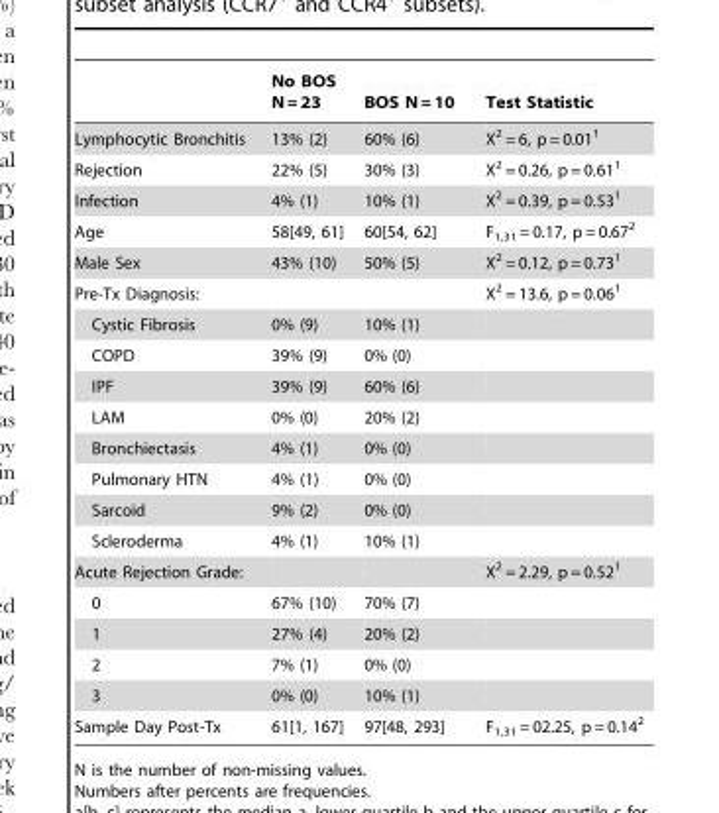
<table><thead><tr><td></td><td>No BOS N = 23</td><td>BOS N = 10</td><td>Test Statistic</td></tr></thead><tbody><tr><td>Lymphocytic Bronchitis</td><td>13% (2)</td><td>60% (6)</td><td>X<sup>2</sup> = 6, p = 0.01<sup>1</sup></td></tr><tr><td>Rejection</td><td>22% (5)</td><td>30% (3)</td><td>X<sup>2</sup> = 0.26, p = 0.61<sup>1</sup></td></tr><tr><td>Infection</td><td>4% (1)</td><td>10% (1)</td><td>X<sup>2</sup> = 0.39, p = 0.53<sup>1</sup></td></tr><tr><td>Age</td><td>58[49, 61]</td><td>60[54, 62]</td><td>F<sub>1,31</sub> = 0.17, p = 0.67<sup>2</sup></td></tr><tr><td>Male Sex</td><td>43% (10)</td><td>50% (5)</td><td>X<sup>2</sup> = 0.12, p = 0.73<sup>1</sup></td></tr><tr><td>Pre-Tx Diagnosis:</td><td></td><td></td><td>X<sup>2</sup> = 13.6, p = 0.06<sup>1</sup></td></tr><tr><td>Cystic Fibrosis</td><td>0% (9)</td><td>10% (1)</td><td></td></tr><tr><td>COPD</td><td>39% (9)</td><td>0% (0)</td><td></td></tr><tr><td>IPF</td><td>39% (9)</td><td>60% (6)</td><td></td></tr><tr><td>LAM</td><td>0% (0)</td><td>20% (2)</td><td></td></tr><tr><td>Bronchiectasis</td><td>4% (1)</td><td>0% (0)</td><td></td></tr><tr><td>Pulmonary HTN</td><td>4% (1)</td><td>0% (0)</td><td></td></tr><tr><td>Sarcoid</td><td>9% (2)</td><td>0% (0)</td><td></td></tr><tr><td>Scleroderma</td><td>4% (1)</td><td>10% (1)</td><td></td></tr><tr><td>Acute Rejection Grade:</td><td></td><td></td><td>X<sup>2</sup> = 2.29, p = 0.52<sup>1</sup></td></tr><tr><td>0</td><td>67% (10)</td><td>70% (7)</td><td></td></tr><tr><td>1</td><td>27% (4)</td><td>20% (2)</td><td></td></tr><tr><td>2</td><td>7% (1)</td><td>0% (0)</td><td></td></tr><tr><td>3</td><td>0% (0)</td><td>10% (1)</td><td></td></tr><tr><td>Sample Day Post-Tx</td><td>61[1, 167]</td><td>97[48, 293]</td><td>F<sub>1,31</sub> = 02.25, p = 0.14<sup>2</sup></td></tr></tbody></table>